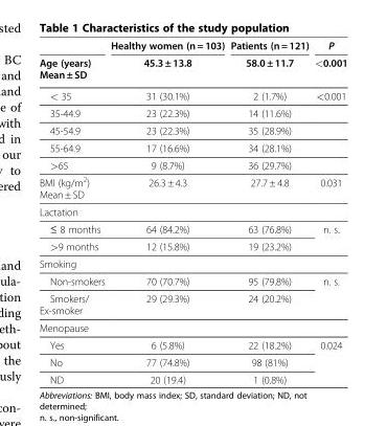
<table><thead><tr><td rowspan="2">Age (years) Mean ± SD</td><td rowspan="2">Healthy women (n = 103) 45.3 ± 13.8</td><td rowspan="2">Patients (n = 121) 58.0 ± 11.7</td><td rowspan="2">P &lt;0.001</td></tr><tr></tr></thead><tbody><tr><td>&lt; 35</td><td>31 (30.1%)</td><td>2 (1.7%)</td><td>&lt;0.001</td></tr><tr><td>35-44.9</td><td>23 (22.3%)</td><td>14 (11.6%)</td><td></td></tr><tr><td>45-54.9</td><td>23 (22.3%)</td><td>35 (28.9%)</td><td></td></tr><tr><td>55-64.9</td><td>17 (16.6%)</td><td>34 (28.1%)</td><td></td></tr><tr><td>&gt;65</td><td>9 (8.7%)</td><td>36 (29.7%)</td><td></td></tr><tr><td>BMI (kg/m<sup>2</sup>) Mean ± SD</td><td>26.3 ± 4.3</td><td>27.7 ± 4.8</td><td>0.031</td></tr><tr><td colspan="4">Lactation</td></tr><tr><td>≤ 8 months</td><td>64 (84.2%)</td><td>63 (76.8%)</td><td rowspan="2">n. s.</td></tr><tr><td>&gt;9 months</td><td>12 (15.8%)</td><td>19 (23.2%)</td></tr><tr><td colspan="4">Smoking</td></tr><tr><td>Non-smokers</td><td>70 (70.7%)</td><td>95 (79.8%)</td><td rowspan="2">n. s.</td></tr><tr><td>Smokers/ Ex-smoker</td><td>29 (29.3%)</td><td>24 (20.2%)</td></tr><tr><td colspan="4">Menopause</td></tr><tr><td>Yes</td><td>6 (5.8%)</td><td>22 (18.2%)</td><td rowspan="3">0.024</td></tr><tr><td>No</td><td>77 (74.8%)</td><td>98 (81%)</td></tr><tr><td>ND</td><td>20 (19.4)</td><td>1 (0.8%)</td></tr></tbody></table>